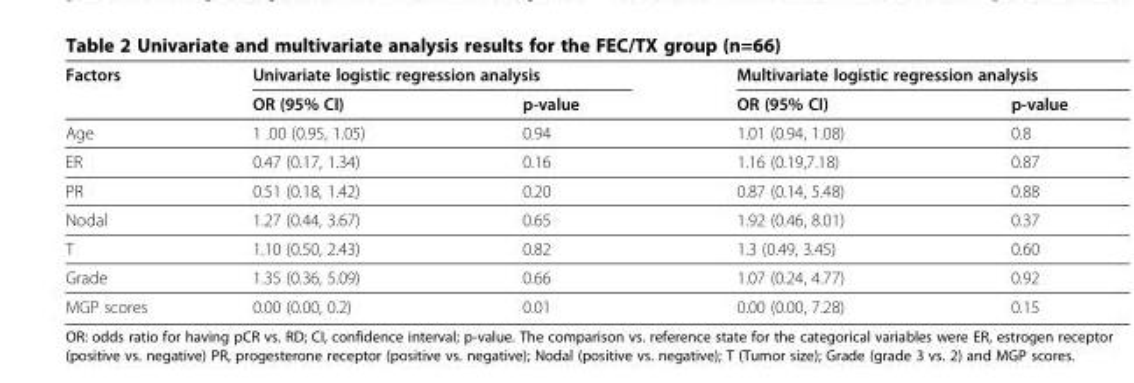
<table><thead><tr><td rowspan="2">Factors</td><td colspan="2">Univariate logistic regression analysis</td><td colspan="2">Multivariate logistic regression analysis</td></tr><tr><td>OR (95% CI)</td><td>p-value</td><td>OR (95% CI)</td><td>p-value</td></tr></thead><tbody><tr><td>Age</td><td>1 .00 (0.95, 1.05)</td><td>0.94</td><td>1.01 (0.94, 1.08)</td><td>0.8</td></tr><tr><td>ER</td><td>0.47 (0.17, 1.34)</td><td>0.16</td><td>1.16 (0.19,7.18)</td><td>0.87</td></tr><tr><td>PR</td><td>0.51 (0.18, 1.42)</td><td>0.20</td><td>0.87 (0.14, 5.48)</td><td>0.88</td></tr><tr><td>Nodal</td><td>1.27 (0.44, 3.67)</td><td>0.65</td><td>1.92 (0.46, 8.01)</td><td>0.37</td></tr><tr><td>T</td><td>1.10 (0.50, 2.43)</td><td>0.82</td><td>1.3 (0.49, 3.45)</td><td>0.60</td></tr><tr><td>Grade</td><td>1.35 (0.36, 5.09)</td><td>0.66</td><td>1.07 (0.24, 4.77)</td><td>0.92</td></tr><tr><td>MGP scores</td><td>0.00 (0.00, 0.2)</td><td>0.01</td><td>0.00 (0.00, 7.28)</td><td>0.15</td></tr></tbody></table>